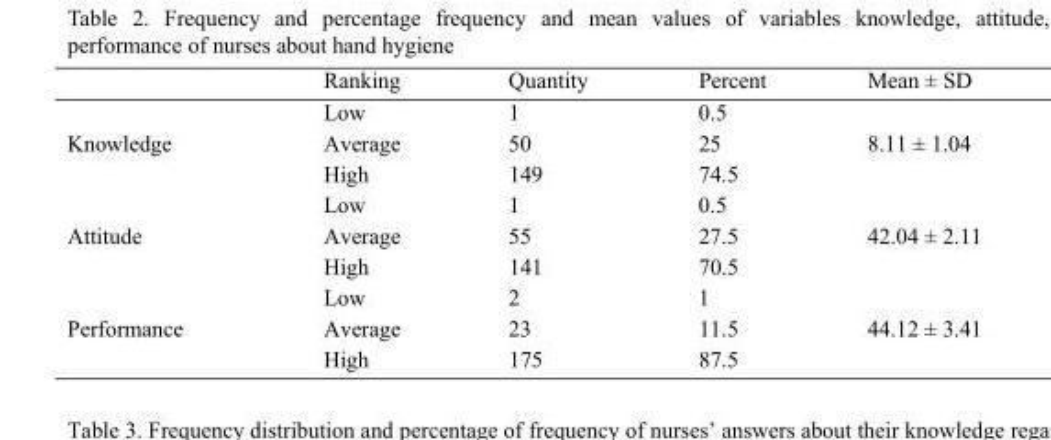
<table><thead><tr><td></td><td>Ranking</td><td>Quantity</td><td>Percent</td><td>Mean ± SD</td></tr></thead><tbody><tr><td rowspan="3">Knowledge</td><td>Low</td><td>1</td><td>0.5</td><td rowspan="3">8.11 ± 1.04</td></tr><tr><td>Average</td><td>50</td><td>25</td></tr><tr><td>High</td><td>149</td><td>74.5</td></tr><tr><td rowspan="3">Attitude</td><td>Low</td><td>1</td><td>0.5</td><td rowspan="3">42.04 ± 2.11</td></tr><tr><td>Average</td><td>55</td><td>27.5</td></tr><tr><td>High</td><td>141</td><td>70.5</td></tr><tr><td rowspan="3">Performance</td><td>Low</td><td>2</td><td>1</td><td rowspan="3">44.12 ± 3.41</td></tr><tr><td>Average</td><td>23</td><td>11.5</td></tr><tr><td>High</td><td>175</td><td>87.5</td></tr></tbody></table>